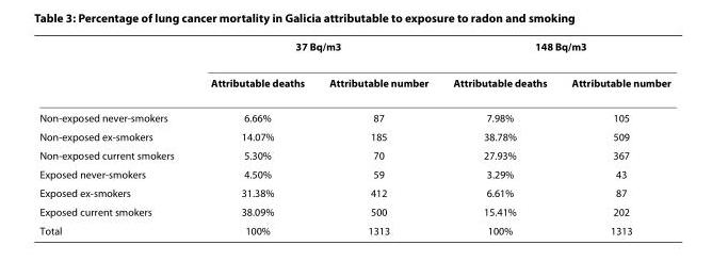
<table><thead><tr><td rowspan="2"></td><td colspan="2">37 Bq/m<sup>3</sup></td><td colspan="2">148 Bq/m<sup>3</sup></td></tr><tr><td>Attributable deaths</td><td>Attributable number</td><td>Attributable deaths</td><td>Attributable number</td></tr></thead><tbody><tr><td>Non-exposed never-smokers</td><td>6.66%</td><td>87</td><td>7.98%</td><td>105</td></tr><tr><td>Non-exposed ex-smokers</td><td>14.07%</td><td>185</td><td>38.78%</td><td>509</td></tr><tr><td>Non-exposed current smokers</td><td>5.30%</td><td>70</td><td>27.93%</td><td>367</td></tr><tr><td>Exposed never-smokers</td><td>4.50%</td><td>59</td><td>3.29%</td><td>43</td></tr><tr><td>Exposed ex-smokers</td><td>31.38%</td><td>412</td><td>6.61%</td><td>87</td></tr><tr><td>Exposed current smokers</td><td>38.09%</td><td>500</td><td>15.41%</td><td>202</td></tr><tr><td>Total</td><td>100%</td><td>1313</td><td>100%</td><td>1313</td></tr></tbody></table>